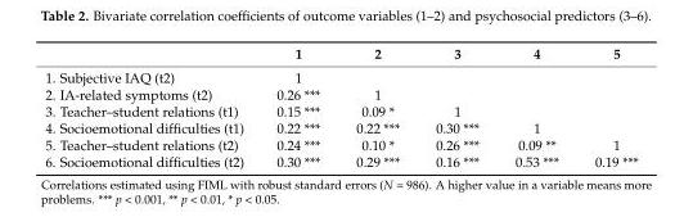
<table><thead><tr><td></td><td>1</td><td>2</td><td>3</td><td>4</td><td>5</td></tr></thead><tbody><tr><td>1. Subjective IAQ (t2)</td><td>1</td><td></td><td></td><td></td><td></td></tr><tr><td>2. IA-related symptoms (t2)</td><td>0.26 ***</td><td>1</td><td></td><td></td><td></td></tr><tr><td>3. Teacher–student relations (t1)</td><td>0.15 ***</td><td>0.09 *</td><td>1</td><td></td><td></td></tr><tr><td>4. Socioemotional difficulties (t1)</td><td>0.22 ***</td><td>0.22 ***</td><td>0.30 ***</td><td>1</td><td></td></tr><tr><td>5. Teacher–student relations (t2)</td><td>0.24 ***</td><td>0.10 *</td><td>0.26 ***</td><td>0.09 **</td><td>1</td></tr><tr><td>6. Socioemotional difficulties (t2)</td><td>0.30 ***</td><td>0.29 ***</td><td>0.16 ***</td><td>0.53 ***</td><td>0.19 ***</td></tr></tbody></table>